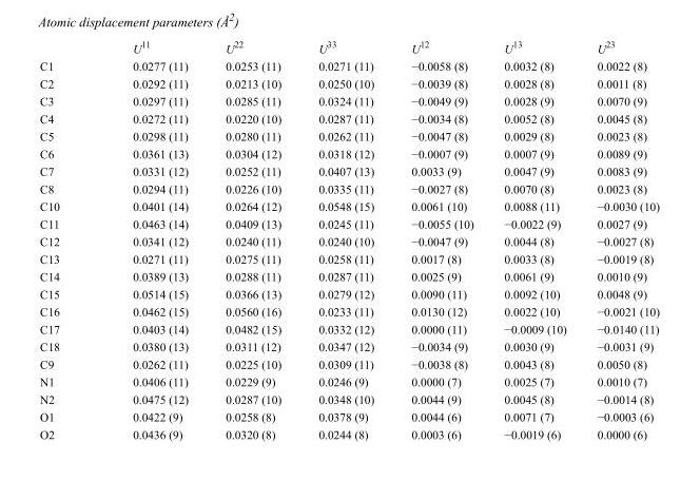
<table><thead><tr><td></td><td>U<sup>11</sup></td><td>U<sup>22</sup></td><td>U<sup>33</sup></td><td>U<sup>12</sup></td><td>U<sup>13</sup></td><td>U<sup>23</sup></td></tr></thead><tbody><tr><td>C1</td><td>0.0277 (11)</td><td>0.0253 (11)</td><td>0.0271 (11)</td><td>−0.0058 (8)</td><td>0.0032 (8)</td><td>0.0022 (8)</td></tr><tr><td>C2</td><td>0.0292 (11)</td><td>0.0213 (10)</td><td>0.0250 (10)</td><td>−0.0039 (8)</td><td>0.0028 (8)</td><td>0.0011 (8)</td></tr><tr><td>C3</td><td>0.0297 (11)</td><td>0.0285 (11)</td><td>0.0324 (11)</td><td>−0.0049 (9)</td><td>0.0028 (9)</td><td>0.0070 (9)</td></tr><tr><td>C4</td><td>0.0272 (11)</td><td>0.0220 (10)</td><td>0.0287 (11)</td><td>−0.0034 (8)</td><td>0.0052 (8)</td><td>0.0045 (8)</td></tr><tr><td>C5</td><td>0.0298 (11)</td><td>0.0280 (11)</td><td>0.0262 (11)</td><td>−0.0047 (8)</td><td>0.0029 (8)</td><td>0.0023 (8)</td></tr><tr><td>C6</td><td>0.0361 (13)</td><td>0.0304 (12)</td><td>0.0318 (12)</td><td>−0.0007 (9)</td><td>0.0007 (9)</td><td>0.0089 (9)</td></tr><tr><td>C7</td><td>0.0331 (12)</td><td>0.0252 (11)</td><td>0.0407 (13)</td><td>0.0033 (9)</td><td>0.0047 (9)</td><td>0.0083 (9)</td></tr><tr><td>C8</td><td>0.0294 (11)</td><td>0.0226 (10)</td><td>0.0335 (11)</td><td>−0.0027 (8)</td><td>0.0070 (8)</td><td>0.0023 (8)</td></tr><tr><td>C10</td><td>0.0401 (14)</td><td>0.0264 (12)</td><td>0.0548 (15)</td><td>0.0061 (10)</td><td>0.0088 (11)</td><td>−0.0030 (10)</td></tr><tr><td>C11</td><td>0.0463 (14)</td><td>0.0409 (13)</td><td>0.0245 (11)</td><td>−0.0055 (10)</td><td>−0.0022 (9)</td><td>0.0027 (9)</td></tr><tr><td>C12</td><td>0.0341 (12)</td><td>0.0240 (11)</td><td>0.0240 (10)</td><td>−0.0047 (9)</td><td>0.0044 (8)</td><td>−0.0027 (8)</td></tr><tr><td>C13</td><td>0.0271 (11)</td><td>0.0275 (11)</td><td>0.0258 (11)</td><td>0.0017 (8)</td><td>0.0033 (8)</td><td>−0.0019 (8)</td></tr><tr><td>C14</td><td>0.0389 (13)</td><td>0.0288 (11)</td><td>0.0287 (11)</td><td>0.0025 (9)</td><td>0.0061 (9)</td><td>0.0010 (9)</td></tr><tr><td>C15</td><td>0.0514 (15)</td><td>0.0366 (13)</td><td>0.0279 (12)</td><td>0.0090 (11)</td><td>0.0092 (10)</td><td>0.0048 (9)</td></tr><tr><td>C16</td><td>0.0462 (15)</td><td>0.0560 (16)</td><td>0.0233 (11)</td><td>0.0130 (12)</td><td>0.0022 (10)</td><td>−0.0021 (10)</td></tr><tr><td>C17</td><td>0.0403 (14)</td><td>0.0482 (15)</td><td>0.0332 (12)</td><td>0.0000 (11)</td><td>−0.0009 (10)</td><td>−0.0140 (11)</td></tr><tr><td>C18</td><td>0.0380 (13)</td><td>0.0311 (12)</td><td>0.0347 (12)</td><td>−0.0034 (9)</td><td>0.0030 (9)</td><td>−0.0031 (9)</td></tr><tr><td>C9</td><td>0.0262 (11)</td><td>0.0225 (10)</td><td>0.0309 (11)</td><td>−0.0038 (8)</td><td>0.0043 (8)</td><td>0.0050 (8)</td></tr><tr><td>N1</td><td>0.0406 (11)</td><td>0.0229 (9)</td><td>0.0246 (9)</td><td>0.0000 (7)</td><td>0.0025 (7)</td><td>0.0010 (7)</td></tr><tr><td>N2</td><td>0.0475 (12)</td><td>0.0287 (10)</td><td>0.0348 (10)</td><td>0.0044 (9)</td><td>0.0045 (8)</td><td>−0.0014 (8)</td></tr><tr><td>O1</td><td>0.0422 (9)</td><td>0.0258 (8)</td><td>0.0378 (9)</td><td>0.0044 (6)</td><td>0.0071 (7)</td><td>−0.0003 (6)</td></tr><tr><td>O2</td><td>0.0436 (9)</td><td>0.0320 (8)</td><td>0.0244 (8)</td><td>0.0003 (6)</td><td>−0.0019 (6)</td><td>0.0000 (6)</td></tr></tbody></table>